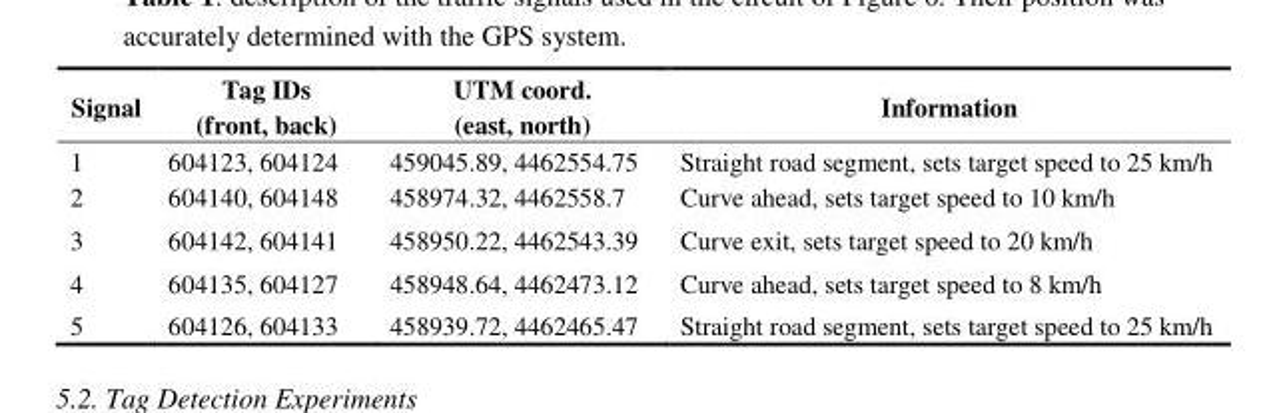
<table><thead><tr><td>Signal</td><td>Tag IDs (front, back)</td><td>UTM coord. (east, north)</td><td>Information</td></tr></thead><tbody><tr><td>1</td><td>604123, 604124</td><td>459045.89, 4462554.75</td><td>Straight road segment, sets target speed to 25 km/h</td></tr><tr><td>2</td><td>604140, 604148</td><td>458974.32, 4462558.7</td><td>Curve ahead, sets target speed to 10 km/h</td></tr><tr><td>3</td><td>604142, 604141</td><td>458950.22, 4462543.39</td><td>Curve exit, sets target speed to 20 km/h</td></tr><tr><td>4</td><td>604135, 604127</td><td>458948.64, 4462473.12</td><td>Curve ahead, sets target speed to 8 km/h</td></tr><tr><td>5</td><td>604126, 604133</td><td>458939.72, 4462465.47</td><td>Straight road segment, sets target speed to 25 km/h</td></tr></tbody></table>